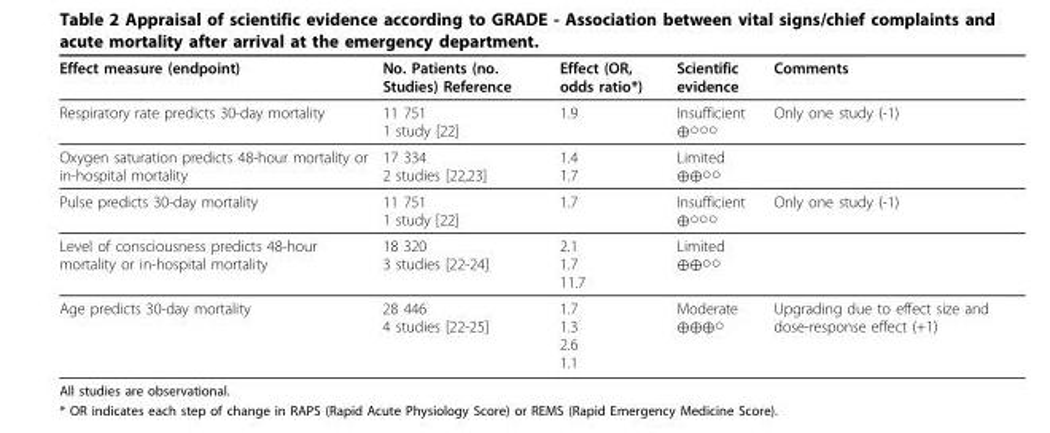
<table><thead><tr><td>Effect measure (endpoint)</td><td>No. Patients (no. Studies) Reference</td><td>Effect (OR, odds ratio*)</td><td>Scientific evidence</td><td>Comments</td></tr></thead><tbody><tr><td>Respiratory rate predicts 30-day mortality</td><td>11 751 1 study [22]</td><td>1.9</td><td>Insufficient ⊕○○○</td><td>Only one study (-1)</td></tr><tr><td>Oxygen saturation predicts 48-hour mortality or in-hospital mortality</td><td>17 334 2 studies [22,23]</td><td>1.4 1.7</td><td>Limited ⊕⊕○○</td><td></td></tr><tr><td>Pulse predicts 30-day mortality</td><td>11 751 1 study [22]</td><td>1.7</td><td>Insufficient ⊕○○○</td><td>Only one study (-1)</td></tr><tr><td>Level of consciousness predicts 48-hour mortality or in-hospital mortality</td><td>18 320 3 studies [22-24]</td><td>2.1 1.7 11.7</td><td>Limited ⊕⊕○○</td><td></td></tr><tr><td>Age predicts 30-day mortality</td><td>28 446 4 studies [22-25]</td><td>1.7 1.3 2.6 1.1</td><td>Moderate ⊕⊕⊕○</td><td>Upgrading due to effect size and dose-response effect (+1)</td></tr></tbody></table>